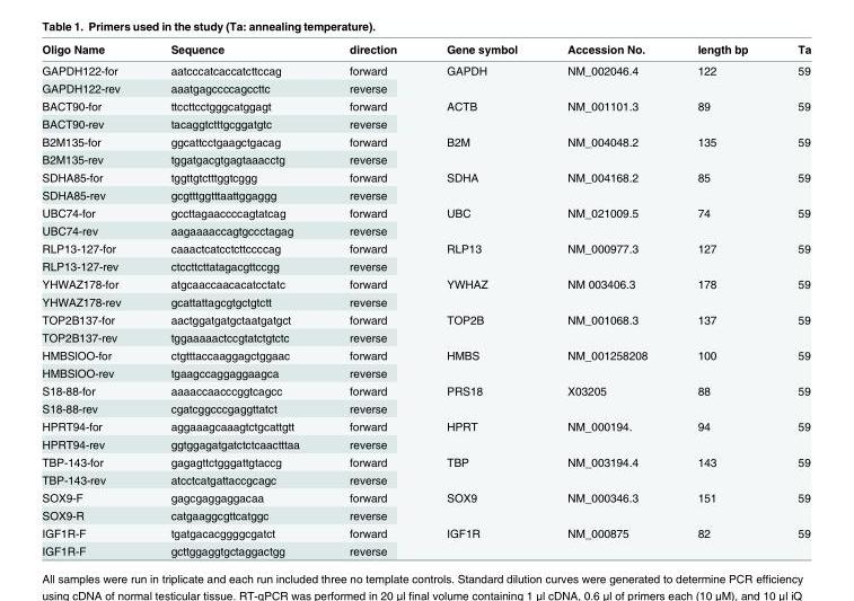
<table><thead><tr><td>Oligo Name</td><td>Sequence</td><td>direction</td><td>Gene symbol</td><td>Accession No.</td><td>length bp</td><td>Ta</td></tr></thead><tbody><tr><td>GAPDH122-for</td><td>aatcccatcaccatcttccag</td><td>forward</td><td rowspan="2">GAPDH</td><td rowspan="2">NM_002046.4</td><td rowspan="2">122</td><td rowspan="2">59</td></tr><tr><td>GAPDH122-rev</td><td>aaatgagccccagccttc</td><td>reverse</td></tr><tr><td>BACT90-for</td><td>ttccttcctgggcatggagt</td><td>forward</td><td rowspan="2">ACTB</td><td rowspan="2">NM_001101.3</td><td rowspan="2">89</td><td rowspan="2">59</td></tr><tr><td>BACT90-rev</td><td>tacaggtctttgcggatgtc</td><td>reverse</td></tr><tr><td>B2M135-for</td><td>ggcattcctgaagctgacag</td><td>forward</td><td rowspan="2">B2M</td><td rowspan="2">NM_004048.2</td><td rowspan="2">135</td><td rowspan="2">59</td></tr><tr><td>B2M135-rev</td><td>tggatgacgtgagtaaacctg</td><td>reverse</td></tr><tr><td>SDHA85-for</td><td>tggttgtctttggtcggg</td><td>forward</td><td rowspan="2">SDHA</td><td rowspan="2">NM_004168.2</td><td rowspan="2">85</td><td rowspan="2">59</td></tr><tr><td>SDHA85-rev</td><td>gcgtttggtttaattggaggg</td><td>reverse</td></tr><tr><td>UBC74-for</td><td>gccttagaaccccagtatcag</td><td>forward</td><td rowspan="2">UBC</td><td rowspan="2">NM_021009.5</td><td rowspan="2">74</td><td rowspan="2">59</td></tr><tr><td>UBC74-rev</td><td>aagaaaaccagtgccctagag</td><td>reverse</td></tr><tr><td>RLP13-127-for</td><td>caaactcatcctcttccccag</td><td>forward</td><td rowspan="2">RLP13</td><td rowspan="2">NM_000977.3</td><td rowspan="2">127</td><td rowspan="2">59</td></tr><tr><td>RLP13-127-rev</td><td>ctccttcttatagacgttccgg</td><td>reverse</td></tr><tr><td>YHWAZ178-for</td><td>atgcaaccaacacatcctatc</td><td>forward</td><td rowspan="2">YWHAZ</td><td rowspan="2">NM 003406.3</td><td rowspan="2">178</td><td rowspan="2">59</td></tr><tr><td>YHWAZ178-rev</td><td>gcattattagcgtgctgtctt</td><td>reverse</td></tr><tr><td>TOP2B137-for</td><td>aactggatgatgctaatgatgct</td><td>forward</td><td rowspan="2">TOP2B</td><td rowspan="2">NM_001068.3</td><td rowspan="2">137</td><td rowspan="2">59</td></tr><tr><td>TOP2B137-rev</td><td>tggaaaaactccgtatctgtctc</td><td>reverse</td></tr><tr><td>HMBSlOO-for</td><td>ctgtttaccaaggagctggaac</td><td>forward</td><td rowspan="2">HMBS</td><td rowspan="2">NM_001258208</td><td rowspan="2">100</td><td rowspan="2">59</td></tr><tr><td>HMBSlOO-rev</td><td>tgaagccaggaggaagca</td><td>reverse</td></tr><tr><td>S18-88-for</td><td>aaaaccaacccggtcagcc</td><td>forward</td><td rowspan="2">PRS18</td><td rowspan="2">X03205</td><td rowspan="2">88</td><td rowspan="2">59</td></tr><tr><td>S18-88-rev</td><td>cgatcggcccgaggttatct</td><td>reverse</td></tr><tr><td>HPRT94-for</td><td>aggaaagcaaagtctgcattgtt</td><td>forward</td><td rowspan="2">HPRT</td><td rowspan="2">NM_000194.</td><td rowspan="2">94</td><td rowspan="2">59</td></tr><tr><td>HPRT94-rev</td><td>ggtggagatgatctctcaactttaa</td><td>reverse</td></tr><tr><td>TBP-143-for</td><td>gagagttctgggattgtaccg</td><td>forward</td><td rowspan="2">TBP</td><td rowspan="2">NM_003194.4</td><td rowspan="2">143</td><td rowspan="2">59</td></tr><tr><td>TBP-143-rev</td><td>atcctcatgattaccgcagc</td><td>reverse</td></tr><tr><td>SOX9-F</td><td>gagcgaggaggacaa</td><td>forward</td><td rowspan="2">SOX9</td><td rowspan="2">NM_000346.3</td><td rowspan="2">151</td><td rowspan="2">59</td></tr><tr><td>SOX9-R</td><td>catgaaggcgttcatggc</td><td>reverse</td></tr><tr><td>IGF1R-F</td><td>tgatgacacggggcgatct</td><td>forward</td><td rowspan="2">IGF1R</td><td rowspan="2">NM_000875</td><td rowspan="2">82</td><td rowspan="2">59</td></tr><tr><td>IGF1R-F</td><td>gcttggaggtgctaggactgg</td><td>reverse</td></tr></tbody></table>